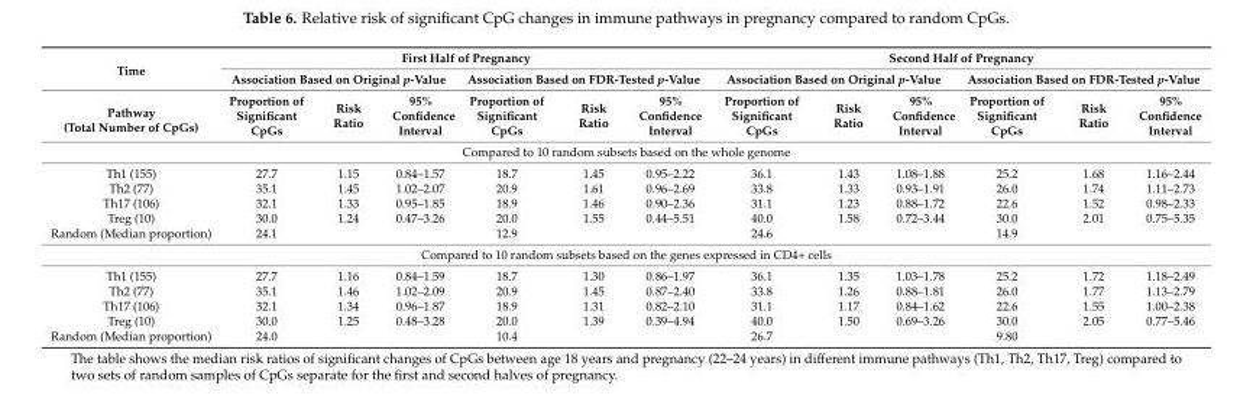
<table><thead><tr><td rowspan="3">Time Pathway (Total Number of CpGs)</td><td colspan="6">First Half of Pregnancy</td><td colspan="6">Second Half of Pregnancy</td></tr><tr><td colspan="3">Association Based on Original p-Value</td><td colspan="3">Association Based on FDR-Tested p-Value</td><td colspan="3">Association Based on Original p-Value</td><td colspan="3">Association Based on FDR-Tested p-Value</td></tr><tr><td>Proportion of Significant CpGs</td><td>Risk Ratio</td><td>95% Confidence Interval</td><td>Proportion of Significant CpGs</td><td>Risk Ratio</td><td>95% Confidence Interval</td><td>Proportion of Significant CpGs</td><td>Risk Ratio</td><td>95% Confidence Interval</td><td>Proportion of Significant CpGs</td><td>Risk Ratio</td><td>95% Confidence Interval</td></tr></thead><tbody><tr><td colspan="13">Compared to 10 random subsets based on the whole genome</td></tr><tr><td>Th1 (155)</td><td>27.7</td><td>1.15</td><td>0.84–1.57</td><td>18.7</td><td>1.45</td><td>0.95–2.22</td><td>36.1</td><td>1.43</td><td>1.08–1.88</td><td>25.2</td><td>1.68</td><td>1.16–2.44</td></tr><tr><td>Th2 (77)</td><td>35.1</td><td>1.45</td><td>1.02–2.07</td><td>20.9</td><td>1.61</td><td>0.96–2.69</td><td>33.8</td><td>1.33</td><td>0.93–1.91</td><td>26.0</td><td>1.74</td><td>1.11–2.73</td></tr><tr><td>Th17 (106)</td><td>32.1</td><td>1.33</td><td>0.95–1.85</td><td>18.9</td><td>1.46</td><td>0.90–2.36</td><td>31.1</td><td>1.23</td><td>0.88–1.72</td><td>22.6</td><td>1.52</td><td>0.98–2.33</td></tr><tr><td>Treg (10)</td><td>30.0</td><td>1.24</td><td>0.47–3.26</td><td>20.0</td><td>1.55</td><td>0.44–5.51</td><td>40.0</td><td>1.58</td><td>0.72–3.44</td><td>30.0</td><td>2.01</td><td>0.75–5.35</td></tr><tr><td>Random (Median proportion)</td><td>24.1</td><td></td><td></td><td>12.9</td><td></td><td></td><td>24.6</td><td></td><td></td><td>14.9</td><td></td><td></td></tr><tr><td colspan="13">Compared to 10 random subsets based on the genes expressed in CD4+ cells</td></tr><tr><td>Th1 (155)</td><td>27.7</td><td>1.16</td><td>0.84–1.59</td><td>18.7</td><td>1.30</td><td>0.86–1.97</td><td>36.1</td><td>1.35</td><td>1.03–1.78</td><td>25.2</td><td>1.72</td><td>1.18–2.49</td></tr><tr><td>Th2 (77)</td><td>35.1</td><td>1.46</td><td>1.02–2.09</td><td>20.9</td><td>1.45</td><td>0.87–2.40</td><td>33.8</td><td>1.26</td><td>0.88–1.81</td><td>26.0</td><td>1.77</td><td>1.13–2.79</td></tr><tr><td>Th17 (106)</td><td>32.1</td><td>1.34</td><td>0.96–1.87</td><td>18.9</td><td>1.31</td><td>0.82–2.10</td><td>31.1</td><td>1.17</td><td>0.84–1.62</td><td>22.6</td><td>1.55</td><td>1.00–2.38</td></tr><tr><td>Treg (10)</td><td>30.0</td><td>1.25</td><td>0.48–3.28</td><td>20.0</td><td>1.39</td><td>0.39–4.94</td><td>40.0</td><td>1.50</td><td>0.69–3.26</td><td>30.0</td><td>2.05</td><td>0.77–5.46</td></tr><tr><td>Random (Median proportion)</td><td>24.0</td><td></td><td></td><td>10.4</td><td></td><td></td><td>26.7</td><td></td><td></td><td>9.80</td><td></td><td></td></tr></tbody></table>